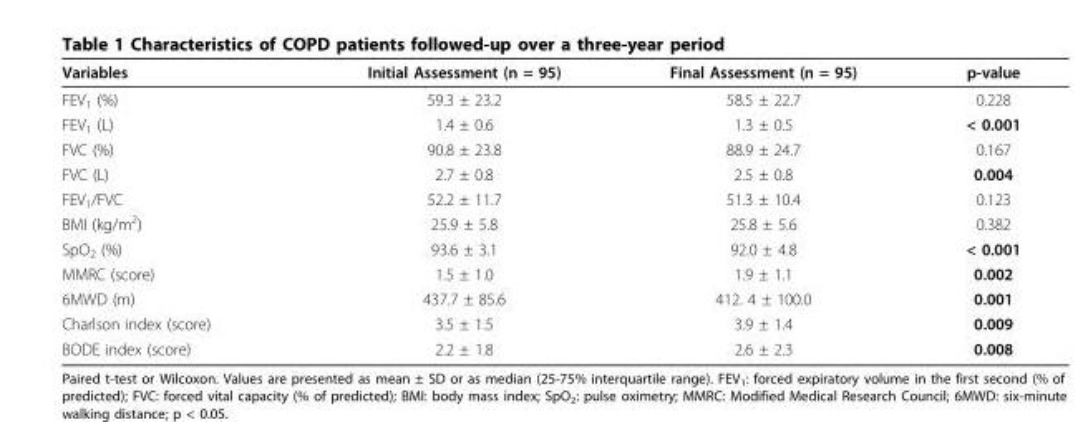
<table><thead><tr><td>Variables</td><td>Initial Assessment (n = 95)</td><td>Final Assessment (n = 95)</td><td>p-value</td></tr></thead><tbody><tr><td>FEV<sub>1</sub> (%)</td><td>59.3 ± 23.2</td><td>58.5 ± 22.7</td><td>0.228</td></tr><tr><td>FEV<sub>1</sub> (L)</td><td>1.4 ± 0.6</td><td>1.3 ± 0.5</td><td>&lt; 0.001</td></tr><tr><td>FVC (%)</td><td>90.8 ± 23.8</td><td>88.9 ± 24.7</td><td>0.167</td></tr><tr><td>FVC (L)</td><td>2.7 ± 0.8</td><td>2.5 ± 0.8</td><td>0.004</td></tr><tr><td>FEV<sub>1</sub>/FVC</td><td>52.2 ± 11.7</td><td>51.3 ± 10.4</td><td>0.123</td></tr><tr><td>BMI (kg/m<sup>2</sup>)</td><td>25.9 ± 5.8</td><td>25.8 ± 5.6</td><td>0.382</td></tr><tr><td>SpO<sub>2</sub> (%)</td><td>93.6 ± 3.1</td><td>92.0 ± 4.8</td><td>&lt; 0.001</td></tr><tr><td>MMRC (score)</td><td>1.5 ± 1.0</td><td>1.9 ± 1.1</td><td>0.002</td></tr><tr><td>6MWD (m)</td><td>437.7 ± 85.6</td><td>412. 4 ± 100.0</td><td>0.001</td></tr><tr><td>Charlson index (score)</td><td>3.5 ± 1.5</td><td>3.9 ± 1.4</td><td>0.009</td></tr><tr><td>BODE index (score)</td><td>2.2 ± 1.8</td><td>2.6 ± 2.3</td><td>0.008</td></tr></tbody></table>